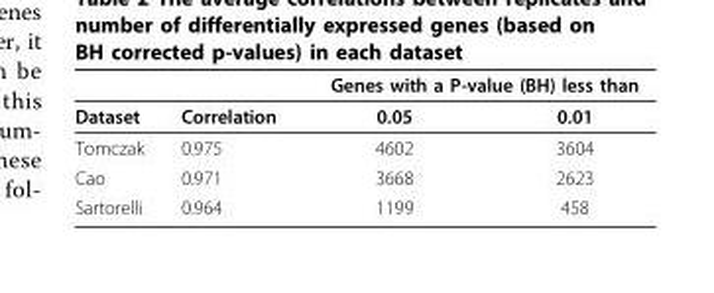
<table><thead><tr><td rowspan="2">Dataset</td><td rowspan="2">Correlation</td><td colspan="2">Genes with a P-value (BH) less than</td></tr><tr><td>0.05</td><td>0.01</td></tr></thead><tbody><tr><td>Tomczak</td><td>0.975</td><td>4602</td><td>3604</td></tr><tr><td>Cao</td><td>0.971</td><td>3668</td><td>2623</td></tr><tr><td>Sartorelli</td><td>0.964</td><td>1199</td><td>458</td></tr></tbody></table>